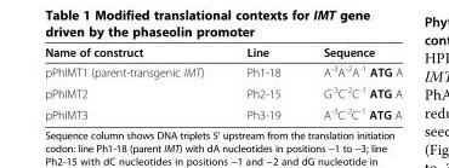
<table><thead><tr><td>Name of construct</td><td>Line</td><td>Sequence</td></tr></thead><tbody><tr><td>pPhIMT1 (parent-transgenic IMT)</td><td>Ph1-18</td><td>A<sup>-3</sup>A<sup>-2</sup>A<sup>-1</sup> ATG A</td></tr><tr><td>pPhIMT2</td><td>Ph2-15</td><td>G<sup>-3</sup>C<sup>-2</sup>C<sup>-1</sup> ATG A</td></tr><tr><td>pPhIMT3</td><td>Ph3-19</td><td>A<sup>-3</sup>C<sup>-2</sup>C<sup>-1</sup> ATG A</td></tr></tbody></table>